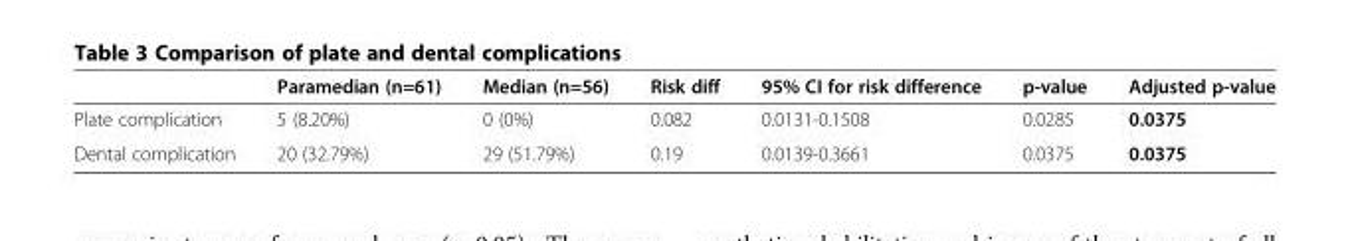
<table><thead><tr><td></td><td>Paramedian (n=61)</td><td>Median (n=56)</td><td>Risk diff</td><td>95% CI for risk difference</td><td>p-value</td><td>Adjusted p-value</td></tr></thead><tbody><tr><td>Plate complication</td><td>5 (8.20%)</td><td>0 (0%)</td><td>0.082</td><td>0.0131-0.1508</td><td>0.0285</td><td>0.0375</td></tr><tr><td>Dental complication</td><td>20 (32.79%)</td><td>29 (51.79%)</td><td>0.19</td><td>0.0139-0.3661</td><td>0.0375</td><td>0.0375</td></tr></tbody></table>